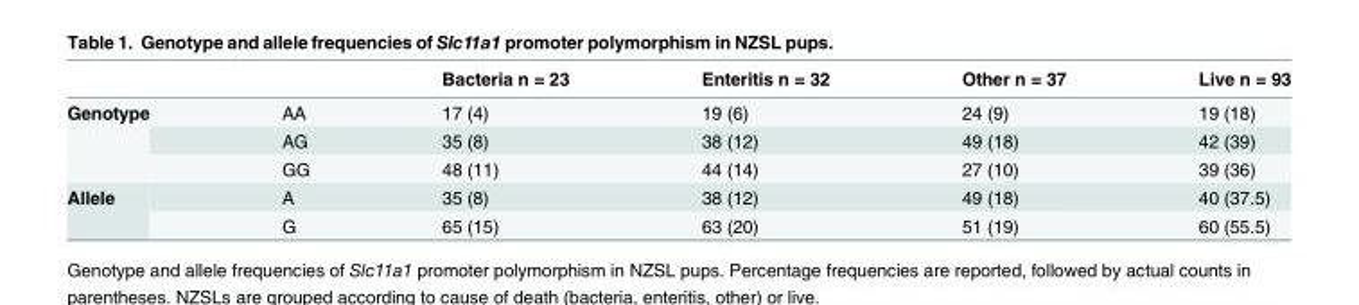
<table><thead><tr><td></td><td></td><td>Bacteria n = 23</td><td>Enteritis n = 32</td><td>Other n = 37</td><td>Live n = 93</td></tr></thead><tbody><tr><td rowspan="3">Genotype</td><td>AA</td><td>17 (4)</td><td>19 (6)</td><td>24 (9)</td><td>19 (18)</td></tr><tr><td>AG</td><td>35 (8)</td><td>38 (12)</td><td>49 (18)</td><td>42 (39)</td></tr><tr><td>GG</td><td>48 (11)</td><td>44 (14)</td><td>27 (10)</td><td>39 (36)</td></tr><tr><td rowspan="2">Allele</td><td>A</td><td>35 (8)</td><td>38 (12)</td><td>49 (18)</td><td>40 (37.5)</td></tr><tr><td>G</td><td>65 (15)</td><td>63 (20)</td><td>51 (19)</td><td>60 (55.5)</td></tr></tbody></table>